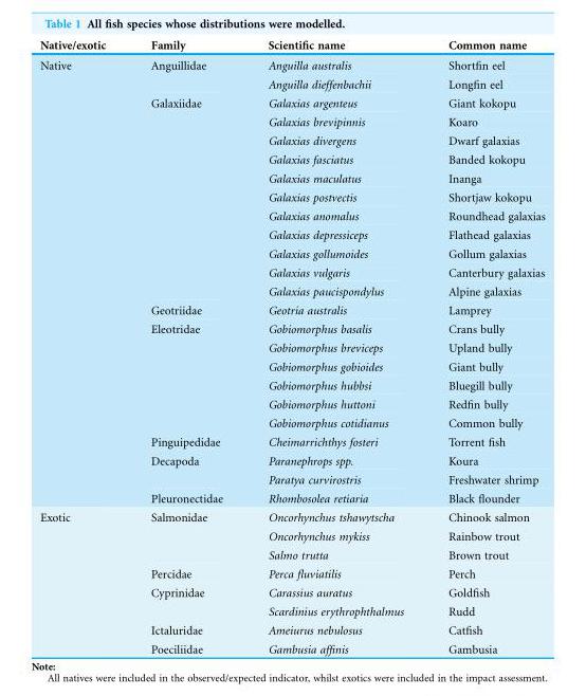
<table><thead><tr><td>Native/exotic</td><td>Family</td><td>Scientific name</td><td>Common name</td></tr></thead><tbody><tr><td rowspan="24">Native</td><td rowspan="2">Anguillidae</td><td>Anguilla australis</td><td>Shortfin eel</td></tr><tr><td>Anguilla dieffenbachii</td><td>Longfin eel</td></tr><tr><td rowspan="11">Galaxiidae</td><td>Galaxias argenteus</td><td>Giant kokopu</td></tr><tr><td>Galaxias brevipinnis</td><td>Koaro</td></tr><tr><td>Galaxias divergens</td><td>Dwarf galaxias</td></tr><tr><td>Galaxias fasciatus</td><td>Banded kokopu</td></tr><tr><td>Galaxias maculatus</td><td>Inanga</td></tr><tr><td>Galaxias postvectis</td><td>Shortjaw kokopu</td></tr><tr><td>Galaxias anomalus</td><td>Roundhead galaxias</td></tr><tr><td>Galaxias depressiceps</td><td>Flathead galaxias</td></tr><tr><td>Galaxias gollumoides</td><td>Gollum galaxias</td></tr><tr><td>Galaxias vulgaris</td><td>Canterbury galaxias</td></tr><tr><td>Galaxias paucispondylus</td><td>Alpine galaxias</td></tr><tr><td>Geotriidae</td><td>Geotria australis</td><td>Lamprey</td></tr><tr><td rowspan="6">Eleotridae</td><td>Gobiomorphus basalis</td><td>Crans bully</td></tr><tr><td>Gobiomorphus breviceps</td><td>Upland bully</td></tr><tr><td>Gobiomorphus gobioides</td><td>Giant bully</td></tr><tr><td>Gobiomorphus hubbsi</td><td>Bluegill bully</td></tr><tr><td>Gobiomorphus huttoni</td><td>Redfin bully</td></tr><tr><td>Gobiomorphus cotidianus</td><td>Common bully</td></tr><tr><td>Pinguipedidae</td><td>Cheimarrichthys fosteri</td><td>Torrent fish</td></tr><tr><td rowspan="2">Decapoda</td><td>Paranephrops spp.</td><td>Koura</td></tr><tr><td>Paratya curvirostris</td><td>Freshwater shrimp</td></tr><tr><td>Pleuronectidae</td><td>Rhombosolea retiaria</td><td>Black flounder</td></tr><tr><td rowspan="8">Exotic</td><td rowspan="3">Salmonidae</td><td>Oncorhynchus tshawytscha</td><td>Chinook salmon</td></tr><tr><td>Oncorhynchus mykiss</td><td>Rainbow trout</td></tr><tr><td>Salmo trutta</td><td>Brown trout</td></tr><tr><td>Percidae</td><td>Perca fluviatilis</td><td>Perch</td></tr><tr><td rowspan="2">Cyprinidae</td><td>Carassius auratus</td><td>Goldfish</td></tr><tr><td>Scardinius erythrophthalmus</td><td>Rudd</td></tr><tr><td>Ictaluridae</td><td>Ameiurus nebulosus</td><td>Catfish</td></tr><tr><td>Poeciliidae</td><td>Gambusia affinis</td><td>Gambusia</td></tr></tbody></table>